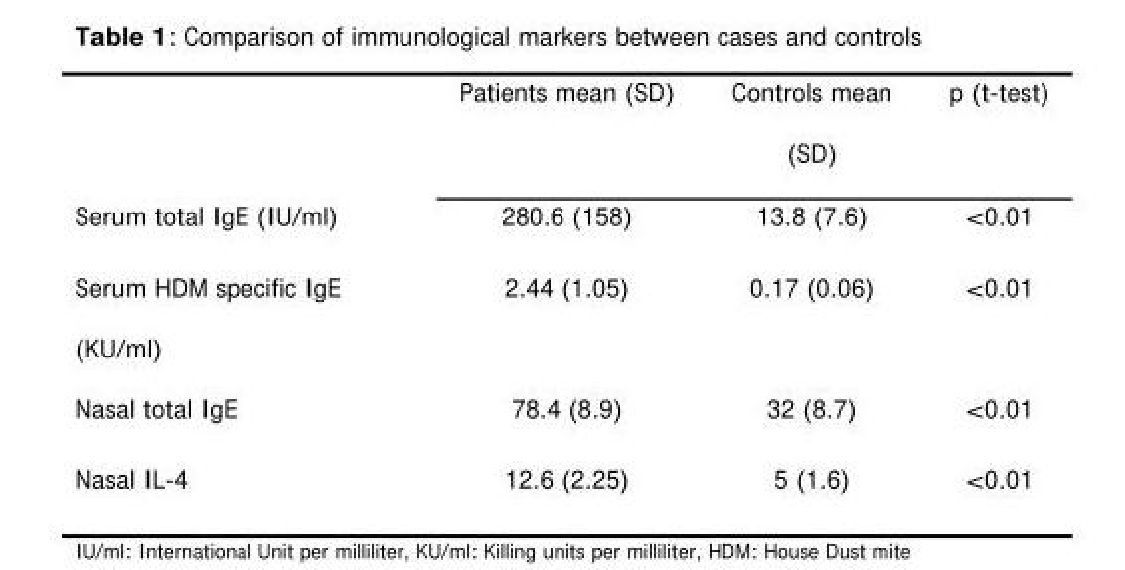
<table><thead><tr><td></td><td>Patients mean (SD)</td><td>Controls mean (SD)</td><td>p (t-test)</td></tr></thead><tbody><tr><td>Serum total IgE (IU/ml)</td><td>280.6 (158)</td><td>13.8 (7.6)</td><td>&lt;0.01</td></tr><tr><td>Serum HDM specific IgE (KU/ml)</td><td>2.44 (1.05)</td><td>0.17 (0.06)</td><td>&lt;0.01</td></tr><tr><td>Nasal total IgE</td><td>78.4 (8.9)</td><td>32 (8.7)</td><td>&lt;0.01</td></tr><tr><td>Nasal IL-4</td><td>12.6 (2.25)</td><td>5 (1.6)</td><td>&lt;0.01</td></tr></tbody></table>